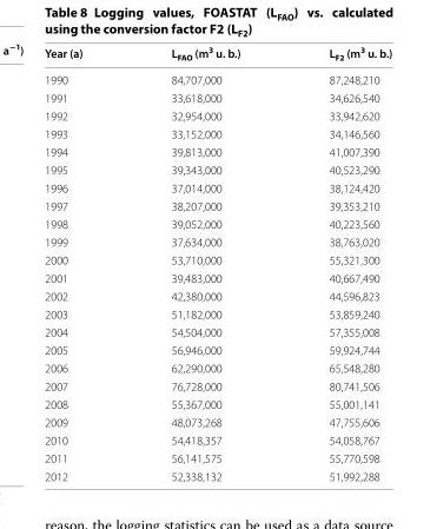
<table><thead><tr><td>Year (a)</td><td>L<sub>FAO</sub> (m<sup>3</sup> u. b.)</td><td>L<sub>F2</sub> (m<sup>3</sup> u. b.)</td></tr></thead><tbody><tr><td>1990</td><td>84,707,000</td><td>87,248,210</td></tr><tr><td>1991</td><td>33,618,000</td><td>34,626,540</td></tr><tr><td>1992</td><td>32,954,000</td><td>33,942,620</td></tr><tr><td>1993</td><td>33,152,000</td><td>34,146,560</td></tr><tr><td>1994</td><td>39,813,000</td><td>41,007,390</td></tr><tr><td>1995</td><td>39,343,000</td><td>40,523,290</td></tr><tr><td>1996</td><td>37,014,000</td><td>38,124,420</td></tr><tr><td>1997</td><td>38,207,000</td><td>39,353,210</td></tr><tr><td>1998</td><td>39,052,000</td><td>40,223,560</td></tr><tr><td>1999</td><td>37,634,000</td><td>38,763,020</td></tr><tr><td>2000</td><td>53,710,000</td><td>55,321,300</td></tr><tr><td>2001</td><td>39,483,000</td><td>40,667,490</td></tr><tr><td>2002</td><td>42,380,000</td><td>44,596,823</td></tr><tr><td>2003</td><td>51,182,000</td><td>53,859,240</td></tr><tr><td>2004</td><td>54,504,000</td><td>57,355,008</td></tr><tr><td>2005</td><td>56,946,000</td><td>59,924,744</td></tr><tr><td>2006</td><td>62,290,000</td><td>65,548,280</td></tr><tr><td>2007</td><td>76,728,000</td><td>80,741,506</td></tr><tr><td>2008</td><td>55,367,000</td><td>55,001,141</td></tr><tr><td>2009</td><td>48,073,268</td><td>47,755,606</td></tr><tr><td>2010</td><td>54,418,357</td><td>54,058,767</td></tr><tr><td>2011</td><td>56,141,575</td><td>55,770,598</td></tr><tr><td>2012</td><td>52,338,132</td><td>51,992,288</td></tr></tbody></table>